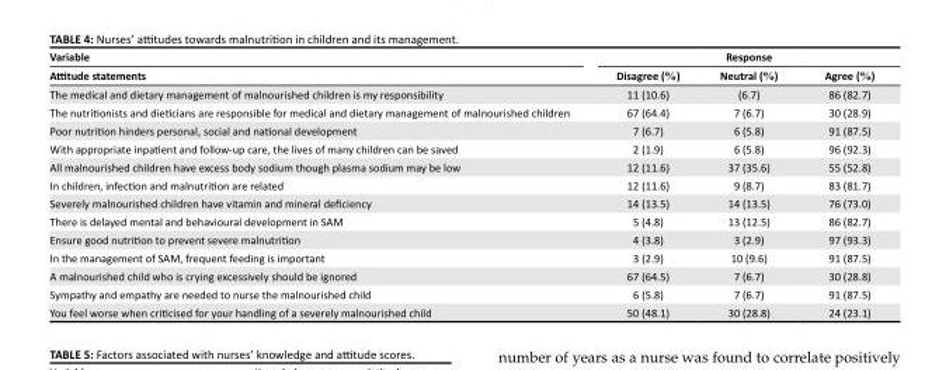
<table><thead><tr><td rowspan="2">Variable Attitude statements</td><td colspan="3">Response</td></tr><tr><td>Disagree (%)</td><td>Neutral (%)</td><td>Agree (%)</td></tr></thead><tbody><tr><td>The medical and dietary management of malnourished children is my responsibility</td><td>11 (10.6)</td><td>(6.7)</td><td>86 (82.7)</td></tr><tr><td>The nutritionists and dieticians are responsible for medical and dietary management of malnourished children</td><td>67 (64.4)</td><td>7 (6.7)</td><td>30 (28.9)</td></tr><tr><td>Poor nutrition hinders personal, social and national development</td><td>7 (6.7)</td><td>6 (5.8)</td><td>91 (87.5)</td></tr><tr><td>With appropriate inpatient and follow-up care, the lives of many children can be saved</td><td>2 (1.9)</td><td>6 (5.8)</td><td>96 (92.3)</td></tr><tr><td>All malnourished children have excess body sodium though plasma sodium may be low</td><td>12 (11.6)</td><td>37 (35.6)</td><td>55 (52.8)</td></tr><tr><td>In children, infection and malnutrition are related</td><td>12 (11.6)</td><td>9 (8.7)</td><td>83 (81.7)</td></tr><tr><td>Severely malnourished children have vitamin and mineral deficiency</td><td>14 (13.5)</td><td>14 (13.5)</td><td>76 (73.0)</td></tr><tr><td>There is delayed mental and behavioural development in SAM</td><td>5 (4.8)</td><td>13 (12.5)</td><td>86 (82.7)</td></tr><tr><td>Ensure good nutrition to prevent severe malnutrition</td><td>4 (3.8)</td><td>3 (2.9)</td><td>97 (93.3)</td></tr><tr><td>In the management of SAM, frequent feeding is important</td><td>3 (2.9)</td><td>10 (9.6)</td><td>91 (87.5)</td></tr><tr><td>A malnourished child who is crying excessively should be ignored</td><td>67 (64.5)</td><td>7 (6.7)</td><td>30 (28.8)</td></tr><tr><td>Sympathy and empathy are needed to nurse the malnourished child</td><td>6 (5.8)</td><td>7 (6.7)</td><td>91 (87.5)</td></tr><tr><td>You feel worse when criticised for your handling of a severely malnourished child</td><td>50 (48.1)</td><td>30 (28.8)</td><td>24 (23.1)</td></tr></tbody></table>